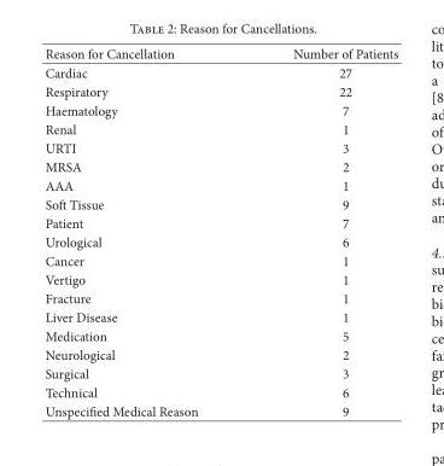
<table><thead><tr><td>Reason for Cancellation</td><td>Number of Patients</td></tr></thead><tbody><tr><td>Cardiac</td><td>27</td></tr><tr><td>Respiratory</td><td>22</td></tr><tr><td>Haematology</td><td>7</td></tr><tr><td>Renal</td><td>1</td></tr><tr><td>URTI</td><td>3</td></tr><tr><td>MRSA</td><td>2</td></tr><tr><td>AAA</td><td>1</td></tr><tr><td>Soft Tissue</td><td>9</td></tr><tr><td>Patient</td><td>7</td></tr><tr><td>Urological</td><td>6</td></tr><tr><td>Cancer</td><td>1</td></tr><tr><td>Vertigo</td><td>1</td></tr><tr><td>Fracture</td><td>1</td></tr><tr><td>Liver Disease</td><td>1</td></tr><tr><td>Medication</td><td>5</td></tr><tr><td>Neurological</td><td>2</td></tr><tr><td>Surgical</td><td>3</td></tr><tr><td>Technical</td><td>6</td></tr><tr><td>Unspecified Medical Reason</td><td>9</td></tr></tbody></table>